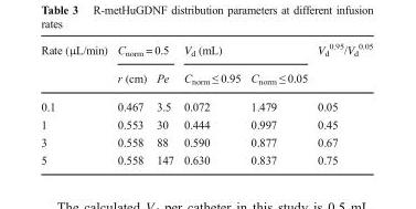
<table><thead><tr><td rowspan="2">Rate (μL/min)</td><td colspan="2">C<sub>norm</sub> = 0.5</td><td colspan="2">V<sub>d</sub> (mL)</td><td rowspan="2">V<sub>d</sub> <sup>0.95</sup>/V<sub>d</sub> <sup>0.05</sup></td></tr><tr><td>r (cm)</td><td>Pe</td><td>C<sub>norm</sub> ≤ 0.95</td><td>C<sub>norm</sub> ≤ 0.05</td></tr></thead><tbody><tr><td>0.1</td><td>0.467</td><td>3.5</td><td>0.072</td><td>1.479</td><td>0.05</td></tr><tr><td>1</td><td>0.553</td><td>30</td><td>0.444</td><td>0.997</td><td>0.45</td></tr><tr><td>3</td><td>0.558</td><td>88</td><td>0.590</td><td>0.877</td><td>0.67</td></tr><tr><td>5</td><td>0.558</td><td>147</td><td>0.630</td><td>0.837</td><td>0.75</td></tr></tbody></table>